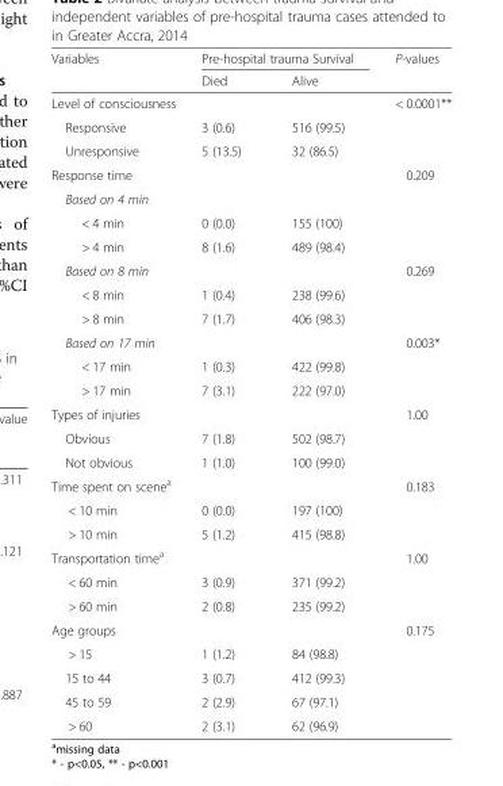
<table><thead><tr><td rowspan="2">Variables</td><td colspan="2">Pre-hospital trauma Survival</td><td rowspan="2">P-values</td></tr><tr><td>Died</td><td>Alive</td></tr></thead><tbody><tr><td>Level of consciousness</td><td></td><td></td><td>&lt; 0.0001**</td></tr><tr><td>Responsive</td><td>3 (0.6)</td><td>516 (99.5)</td><td></td></tr><tr><td>Unresponsive</td><td>5 (13.5)</td><td>32 (86.5)</td><td></td></tr><tr><td>Response time</td><td></td><td></td><td>0.209</td></tr><tr><td colspan="4">Based on 4 min</td></tr><tr><td>&lt; 4 min</td><td>0 (0.0)</td><td>155 (100)</td><td></td></tr><tr><td>&gt; 4 min</td><td>8 (1.6)</td><td>489 (98.4)</td><td></td></tr><tr><td>Based on 8 min</td><td></td><td></td><td>0.269</td></tr><tr><td>&lt; 8 min</td><td>1 (0.4)</td><td>238 (99.6)</td><td></td></tr><tr><td>&gt; 8 min</td><td>7 (1.7)</td><td>406 (98.3)</td><td></td></tr><tr><td>Based on 17 min</td><td></td><td></td><td>0.003*</td></tr><tr><td>&lt; 17 min</td><td>1 (0.3)</td><td>422 (99.8)</td><td></td></tr><tr><td>&gt; 17 min</td><td>7 (3.1)</td><td>222 (97.0)</td><td></td></tr><tr><td>Types of injuries</td><td></td><td></td><td>1.00</td></tr><tr><td>Obvious</td><td>7 (1.8)</td><td>502 (98.7)</td><td></td></tr><tr><td>Not obvious</td><td>1 (1.0)</td><td>100 (99.0)</td><td></td></tr><tr><td>Time spent on scene<sup>a</sup></td><td></td><td></td><td>0.183</td></tr><tr><td>&lt; 10 min</td><td>0 (0.0)</td><td>197 (100)</td><td></td></tr><tr><td>&gt; 10 min</td><td>5 (1.2)</td><td>415 (98.8)</td><td></td></tr><tr><td>Transportation time<sup>a</sup></td><td></td><td></td><td>1.00</td></tr><tr><td>&lt; 60 min</td><td>3 (0.9)</td><td>371 (99.2)</td><td></td></tr><tr><td>&gt; 60 min</td><td>2 (0.8)</td><td>235 (99.2)</td><td></td></tr><tr><td>Age groups</td><td></td><td></td><td>0.175</td></tr><tr><td>&gt; 15</td><td>1 (1.2)</td><td>84 (98.8)</td><td></td></tr><tr><td>15 to 44</td><td>3 (0.7)</td><td>412 (99.3)</td><td></td></tr><tr><td>45 to 59</td><td>2 (2.9)</td><td>67 (97.1)</td><td></td></tr><tr><td>&gt; 60</td><td>2 (3.1)</td><td>62 (96.9)</td><td></td></tr></tbody></table>